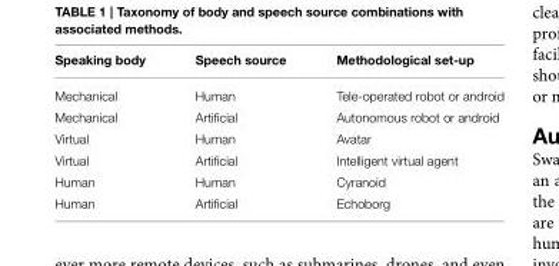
<table><thead><tr><td>Speaking body</td><td>Speech source</td><td>Methodological set-up</td></tr></thead><tbody><tr><td>Mechanical</td><td>Human</td><td>Tele-operated robot or android</td></tr><tr><td>Mechanical</td><td>Artificial</td><td>Autonomous robot or android</td></tr><tr><td>Virtual</td><td>Human</td><td>Avatar</td></tr><tr><td>Virtual</td><td>Artificial</td><td>Intelligent virtual agent</td></tr><tr><td>Human</td><td>Human</td><td>Cyranoid</td></tr><tr><td>Human</td><td>Artificial</td><td>Echoborg</td></tr></tbody></table>